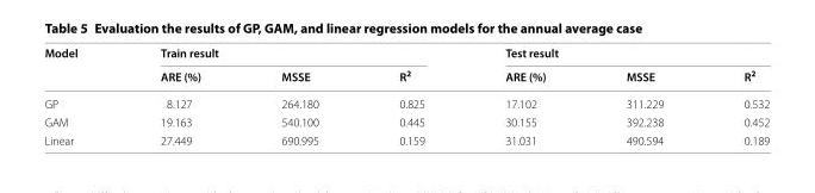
<table><thead><tr><td rowspan="2">Model</td><td colspan="3">Train result</td><td colspan="3">Test result</td></tr><tr><td>ARE (%)</td><td>MSSE</td><td>R<sup>2</sup></td><td>ARE (%)</td><td>MSSE</td><td>R<sup>2</sup></td></tr></thead><tbody><tr><td>GP</td><td>8.127</td><td>264.180</td><td>0.825</td><td>17.102</td><td>311.229</td><td>0.532</td></tr><tr><td>GAM</td><td>19.163</td><td>540.100</td><td>0.445</td><td>30.155</td><td>392.238</td><td>0.452</td></tr><tr><td>Linear</td><td>27.449</td><td>690.995</td><td>0.159</td><td>31.031</td><td>490.594</td><td>0.189</td></tr></tbody></table>